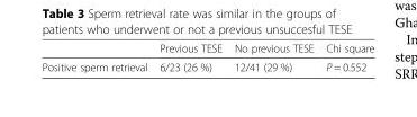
<table><thead><tr><td></td><td>Previous TESE</td><td>No previous TESE</td><td>Chi square</td></tr></thead><tbody><tr><td>Positive sperm retrieval</td><td>6/23 (26 %)</td><td>12/41 (29 %)</td><td>P = 0.552</td></tr></tbody></table>